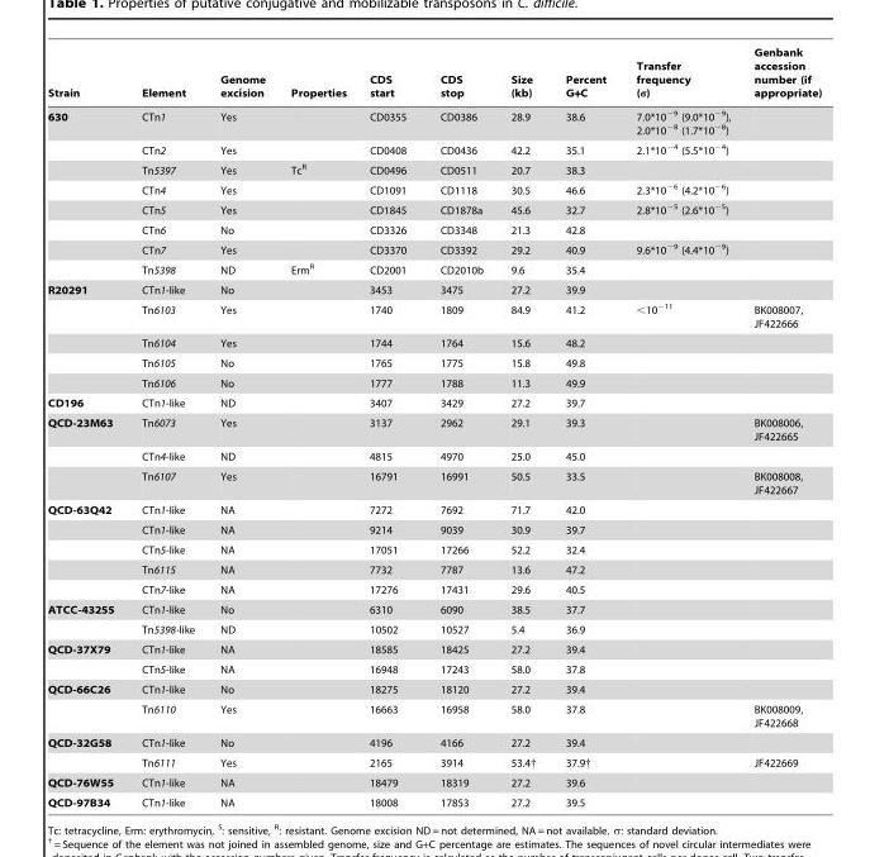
<table><thead><tr><td>Strain</td><td>Element</td><td>Genome excision</td><td>Properties</td><td>CDS start</td><td>CDS stop</td><td>Size (kb)</td><td>Percent G+C</td><td>Transfer frequency (σ)</td><td>Genbank accession number (if appropriate)</td></tr></thead><tbody><tr><td rowspan="8">630</td><td>CTn1</td><td>Yes</td><td></td><td>CD0355</td><td>CD0386</td><td>28.9</td><td>38.6</td><td>7.0*10<sup>−9</sup> (9.0*10<sup>−9</sup>), 2.0*10<sup>−8</sup> (1.7*10<sup>−8</sup>)</td><td></td></tr><tr><td>CTn2</td><td>Yes</td><td></td><td>CD0408</td><td>CD0436</td><td>42.2</td><td>35.1</td><td>2.1*10<sup>−4</sup> (5.5*10<sup>−4</sup>)</td><td></td></tr><tr><td>Tn5397</td><td>Yes</td><td>Tc<sup>R</sup></td><td>CD0496</td><td>CD0511</td><td>20.7</td><td>38.3</td><td></td><td></td></tr><tr><td>CTn4</td><td>Yes</td><td></td><td>CD1091</td><td>CD1118</td><td>30.5</td><td>46.6</td><td>2.3*10<sup>−6</sup> (4.2*10<sup>−6</sup>)</td><td></td></tr><tr><td>CTn5</td><td>Yes</td><td></td><td>CD1845</td><td>CD1878a</td><td>45.6</td><td>32.7</td><td>2.8*10<sup>−5</sup> (2.6*10<sup>−5</sup>)</td><td></td></tr><tr><td>CTn6</td><td>No</td><td></td><td>CD3326</td><td>CD3348</td><td>21.3</td><td>42.8</td><td></td><td></td></tr><tr><td>CTn7</td><td>Yes</td><td></td><td>CD3370</td><td>CD3392</td><td>29.2</td><td>40.9</td><td>9.6*10<sup>−9</sup> (4.4*10<sup>−9</sup>)</td><td></td></tr><tr><td>Tn5398</td><td>ND</td><td>Erm<sup>R</sup></td><td>CD2001</td><td>CD2010b</td><td>9.6</td><td>35.4</td><td></td><td></td></tr><tr><td rowspan="5">R20291</td><td>CTn1-like</td><td>No</td><td></td><td>3453</td><td>3475</td><td>27.2</td><td>39.9</td><td></td><td></td></tr><tr><td>Tn6103</td><td>Yes</td><td></td><td>1740</td><td>1809</td><td>84.9</td><td>41.2</td><td>&lt;10<sup>−11</sup></td><td>BK008007, JF422666</td></tr><tr><td>Tn6104</td><td>Yes</td><td></td><td>1744</td><td>1764</td><td>15.6</td><td>48.2</td><td></td><td></td></tr><tr><td>Tn6105</td><td>No</td><td></td><td>1765</td><td>1775</td><td>15.8</td><td>49.8</td><td></td><td></td></tr><tr><td>Tn6106</td><td>No</td><td></td><td>1777</td><td>1788</td><td>11.3</td><td>49.9</td><td></td><td></td></tr><tr><td>CD196</td><td>CTn1-like</td><td>ND</td><td></td><td>3407</td><td>3429</td><td>27.2</td><td>39.7</td><td></td><td></td></tr><tr><td rowspan="3">QCD-23M63</td><td>Tn6073</td><td>Yes</td><td></td><td>3137</td><td>2962</td><td>29.1</td><td>39.3</td><td></td><td>BK008006, JF422665</td></tr><tr><td>CTn4-like</td><td>ND</td><td></td><td>4815</td><td>4970</td><td>25.0</td><td>45.0</td><td></td><td></td></tr><tr><td>Tn6107</td><td>Yes</td><td></td><td>16791</td><td>16991</td><td>50.5</td><td>33.5</td><td></td><td>BK008008, JF422667</td></tr><tr><td rowspan="5">QCD-63Q42</td><td>CTn1-like</td><td>NA</td><td></td><td>7272</td><td>7692</td><td>71.7</td><td>42.0</td><td></td><td></td></tr><tr><td>CTn1-like</td><td>NA</td><td></td><td>9214</td><td>9039</td><td>30.9</td><td>39.7</td><td></td><td></td></tr><tr><td>CTn5-like</td><td>NA</td><td></td><td>17051</td><td>17266</td><td>52.2</td><td>32.4</td><td></td><td></td></tr><tr><td>Tn6115</td><td>NA</td><td></td><td>7732</td><td>7787</td><td>13.6</td><td>47.2</td><td></td><td></td></tr><tr><td>CTn7-like</td><td>NA</td><td></td><td>17276</td><td>17431</td><td>29.6</td><td>40.5</td><td></td><td></td></tr><tr><td rowspan="2">ATCC-43255</td><td>CTn1-like</td><td>No</td><td></td><td>6310</td><td>6090</td><td>38.5</td><td>37.7</td><td></td><td></td></tr><tr><td>Tn5398-like</td><td>ND</td><td></td><td>10502</td><td>10527</td><td>5.4</td><td>36.9</td><td></td><td></td></tr><tr><td rowspan="2">QCD-37X79</td><td>CTn1-like</td><td>NA</td><td></td><td>18585</td><td>18425</td><td>27.2</td><td>39.4</td><td></td><td></td></tr><tr><td>CTn5-like</td><td>NA</td><td></td><td>16948</td><td>17243</td><td>58.0</td><td>37.8</td><td></td><td></td></tr><tr><td rowspan="2">QCD-66C26</td><td>CTn1-like</td><td>No</td><td></td><td>18275</td><td>18120</td><td>27.2</td><td>39.4</td><td></td><td></td></tr><tr><td>Tn6110</td><td>Yes</td><td></td><td>16663</td><td>16958</td><td>58.0</td><td>37.8</td><td></td><td>BK008009, JF422668</td></tr><tr><td rowspan="2">QCD-32G58</td><td>CTn1-like</td><td>No</td><td></td><td>4196</td><td>4166</td><td>27.2</td><td>39.4</td><td></td><td></td></tr><tr><td>Tn6111</td><td>Yes</td><td></td><td>2165</td><td>3914</td><td>53.4†</td><td>37.9†</td><td></td><td>JF422669</td></tr><tr><td>QCD-76W55</td><td>CTn1-like</td><td>NA</td><td></td><td>18479</td><td>18319</td><td>27.2</td><td>39.6</td><td></td><td></td></tr><tr><td>QCD-97B34</td><td>CTn1-like</td><td>NA</td><td></td><td>18008</td><td>17853</td><td>27.2</td><td>39.5</td><td></td><td></td></tr></tbody></table>